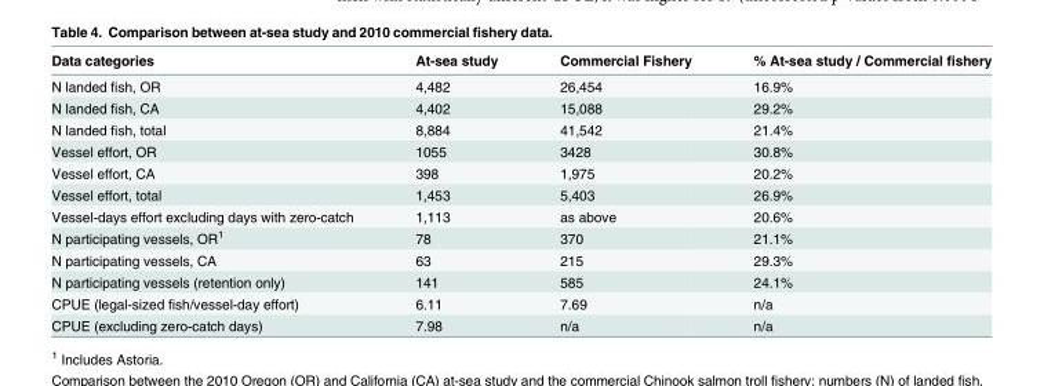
<table><thead><tr><td>Data categories</td><td>At-sea study</td><td>Commercial Fishery</td><td>% At-sea study / Commercial fishery</td></tr></thead><tbody><tr><td>N landed fish, OR</td><td>4,482</td><td>26,454</td><td>16.9%</td></tr><tr><td>N landed fish, CA</td><td>4,402</td><td>15,088</td><td>29.2%</td></tr><tr><td>N landed fish, total</td><td>8,884</td><td>41,542</td><td>21.4%</td></tr><tr><td>Vessel effort, OR</td><td>1055</td><td>3428</td><td>30.8%</td></tr><tr><td>Vessel effort, CA</td><td>398</td><td>1,975</td><td>20.2%</td></tr><tr><td>Vessel effort, total</td><td>1,453</td><td>5,403</td><td>26.9%</td></tr><tr><td>Vessel-days effort excluding days with zero-catch</td><td>1,113</td><td>as above</td><td>20.6%</td></tr><tr><td>N participating vessels, OR<sup>1</sup></td><td>78</td><td>370</td><td>21.1%</td></tr><tr><td>N participating vessels, CA</td><td>63</td><td>215</td><td>29.3%</td></tr><tr><td>N participating vessels (retention only)</td><td>141</td><td>585</td><td>24.1%</td></tr><tr><td>CPUE (legal-sized fish/vessel-day effort)</td><td>6.11</td><td>7.69</td><td>n/a</td></tr><tr><td>CPUE (excluding zero-catch days)</td><td>7.98</td><td>n/a</td><td>n/a</td></tr></tbody></table>